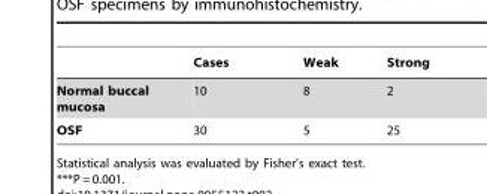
<table><thead><tr><td></td><td>Cases</td><td>Weak</td><td>Strong</td></tr></thead><tbody><tr><td>Normal buccal mucosa</td><td>10</td><td>8</td><td>2</td></tr><tr><td>OSF</td><td>30</td><td>5</td><td>25</td></tr></tbody></table>